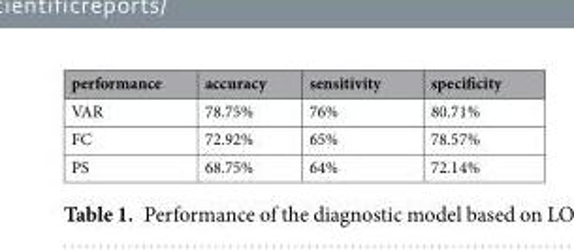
<table><thead><tr><td>performance</td><td>accuracy</td><td>sensitivity</td><td>specificity</td></tr></thead><tbody><tr><td>VAR</td><td>78.75%</td><td>76%</td><td>80.71%</td></tr><tr><td>FC</td><td>72.92%</td><td>65%</td><td>78.57%</td></tr><tr><td>PS</td><td>68.75%</td><td>64%</td><td>72.14%</td></tr></tbody></table>